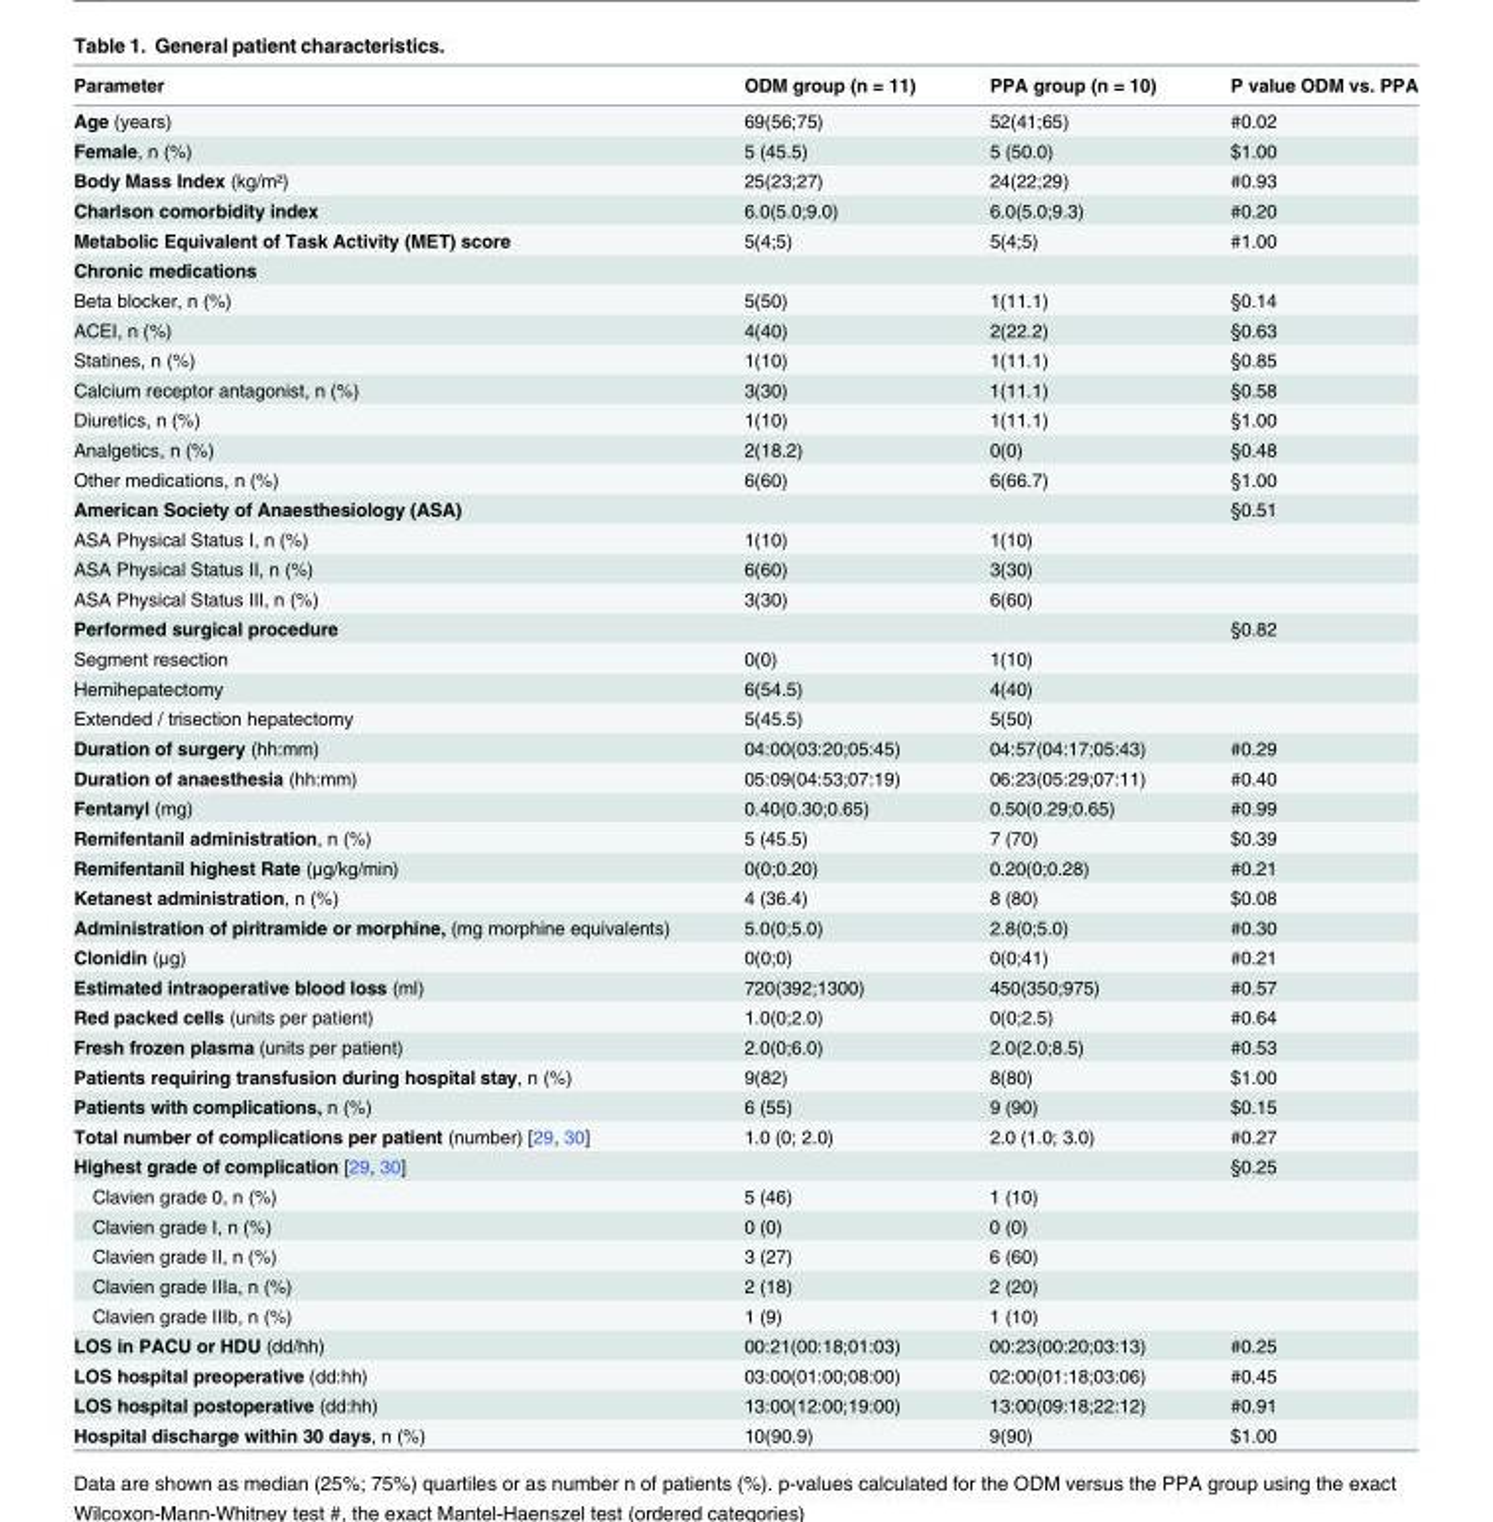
<table><thead><tr><td>Parameter</td><td>ODM group (n = 11)</td><td>PPA group (n = 10)</td><td>P value ODM vs. PPA</td></tr></thead><tbody><tr><td>Age (years)</td><td>69(56;75)</td><td>52(41;65)</td><td>#0.02</td></tr><tr><td>Female, n (%)</td><td>5 (45.5)</td><td>5 (50.0)</td><td>$1.00</td></tr><tr><td>Body Mass Index (kg/m²)</td><td>25(23;27)</td><td>24(22;29)</td><td>#0.93</td></tr><tr><td>Charlson comorbidity index</td><td>6.0(5.0;9.0)</td><td>6.0(5.0;9.3)</td><td>#0.20</td></tr><tr><td>Metabolic Equivalent of Task Activity (MET) score</td><td>5(4;5)</td><td>5(4;5)</td><td>#1.00</td></tr><tr><td colspan="4">Chronic medications</td></tr><tr><td>Beta blocker, n (%)</td><td>5(50)</td><td>1(11.1)</td><td>§0.14</td></tr><tr><td>ACEI, n (%)</td><td>4(40)</td><td>2(22.2)</td><td>§0.63</td></tr><tr><td>Statines, n (%)</td><td>1(10)</td><td>1(11.1)</td><td>§0.85</td></tr><tr><td>Calcium receptor antagonist, n (%)</td><td>3(30)</td><td>1(11.1)</td><td>§0.58</td></tr><tr><td>Diuretics, n (%)</td><td>1(10)</td><td>1(11.1)</td><td>§1.00</td></tr><tr><td>Analgetics, n (%)</td><td>2(18.2)</td><td>0(0)</td><td>§0.48</td></tr><tr><td>Other medications, n (%)</td><td>6(60)</td><td>6(66.7)</td><td>§1.00</td></tr><tr><td>American Society of Anaesthesiology (ASA)</td><td></td><td></td><td>§0.51</td></tr><tr><td>ASA Physical Status I, n (%)</td><td>1(10)</td><td>1(10)</td><td></td></tr><tr><td>ASA Physical Status II, n (%)</td><td>6(60)</td><td>3(30)</td><td></td></tr><tr><td>ASA Physical Status III, n (%)</td><td>3(30)</td><td>6(60)</td><td></td></tr><tr><td>Performed surgical procedure</td><td></td><td></td><td>§0.82</td></tr><tr><td>Segment resection</td><td>0(0)</td><td>1(10)</td><td></td></tr><tr><td>Hemihepatectomy</td><td>6(54.5)</td><td>4(40)</td><td></td></tr><tr><td>Extended / trisection hepatectomy</td><td>5(45.5)</td><td>5(50)</td><td></td></tr><tr><td>Duration of surgery (hh:mm)</td><td>04:00(03:20;05:45)</td><td>04:57(04:17;05:43)</td><td>#0.29</td></tr><tr><td>Duration of anaesthesia (hh:mm)</td><td>05:09(04:53;07:19)</td><td>06:23(05:29;07:11)</td><td>#0.40</td></tr><tr><td>Fentanyl (mg)</td><td>0.40(0.30;0.65)</td><td>0.50(0.29;0.65)</td><td>#0.99</td></tr><tr><td>Remifentanil administration, n (%)</td><td>5 (45.5)</td><td>7 (70)</td><td>$0.39</td></tr><tr><td>Remifentanil highest Rate (μg/kg/min)</td><td>0(0;0.20)</td><td>0.20(0;0.28)</td><td>#0.21</td></tr><tr><td>Ketanest administration, n (%)</td><td>4 (36.4)</td><td>8 (80)</td><td>$0.08</td></tr><tr><td>Administration of piritramide or morphine, (mg morphine equivalents)</td><td>5.0(0;5.0)</td><td>2.8(0;5.0)</td><td>#0.30</td></tr><tr><td>Clonidin (μg)</td><td>0(0;0)</td><td>0(0;41)</td><td>#0.21</td></tr><tr><td>Estimated intraoperative blood loss (ml)</td><td>720(392;1300)</td><td>450(350;975)</td><td>#0.57</td></tr><tr><td>Red packed cells (units per patient)</td><td>1.0(0;2.0)</td><td>0(0;2.5)</td><td>#0.64</td></tr><tr><td>Fresh frozen plasma (units per patient)</td><td>2.0(0;6.0)</td><td>2.0(2.0;8.5)</td><td>#0.53</td></tr><tr><td>Patients requiring transfusion during hospital stay, n (%)</td><td>9(82)</td><td>8(80)</td><td>$1.00</td></tr><tr><td>Patients with complications, n (%)</td><td>6 (55)</td><td>9 (90)</td><td>$0.15</td></tr><tr><td>Total number of complications per patient (number) [29, 30]</td><td>1.0 (0; 2.0)</td><td>2.0 (1.0; 3.0)</td><td>#0.27</td></tr><tr><td>Highest grade of complication [29, 30]</td><td></td><td></td><td>§0.25</td></tr><tr><td>Clavien grade 0, n (%)</td><td>5 (46)</td><td>1 (10)</td><td></td></tr><tr><td>Clavien grade I, n (%)</td><td>0 (0)</td><td>0 (0)</td><td></td></tr><tr><td>Clavien grade II, n (%)</td><td>3 (27)</td><td>6 (60)</td><td></td></tr><tr><td>Clavien grade IIIa, n (%)</td><td>2 (18)</td><td>2 (20)</td><td></td></tr><tr><td>Clavien grade IIIb, n (%)</td><td>1 (9)</td><td>1 (10)</td><td></td></tr><tr><td>LOS in PACU or HDU (dd/hh)</td><td>00:21(00:18;01:03)</td><td>00:23(00:20;03:13)</td><td>#0.25</td></tr><tr><td>LOS hospital preoperative (dd:hh)</td><td>03:00(01:00;08:00)</td><td>02:00(01:18;03:06)</td><td>#0.45</td></tr><tr><td>LOS hospital postoperative (dd:hh)</td><td>13:00(12:00;19:00)</td><td>13:00(09:18;22:12)</td><td>#0.91</td></tr><tr><td>Hospital discharge within 30 days, n (%)</td><td>10(90.9)</td><td>9(90)</td><td>$1.00</td></tr></tbody></table>